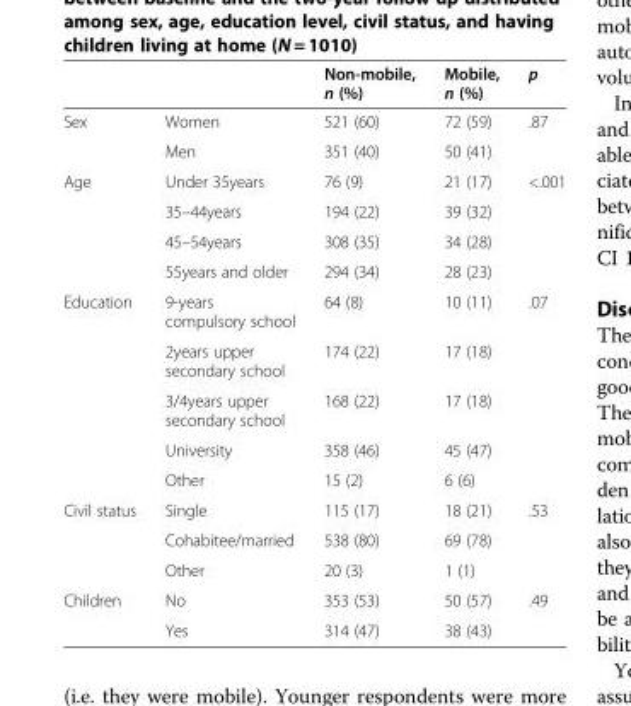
<table><thead><tr><td></td><td></td><td>Non-mobile, n (%)</td><td>Mobile, n (%)</td><td>p</td></tr></thead><tbody><tr><td rowspan="2">Sex</td><td>Women</td><td>521 (60)</td><td>72 (59)</td><td>.87</td></tr><tr><td>Men</td><td>351 (40)</td><td>50 (41)</td><td></td></tr><tr><td rowspan="4">Age</td><td>Under 35years</td><td>76 (9)</td><td>21 (17)</td><td>&lt;.001</td></tr><tr><td>35–44years</td><td>194 (22)</td><td>39 (32)</td><td></td></tr><tr><td>45–54years</td><td>308 (35)</td><td>34 (28)</td><td></td></tr><tr><td>55years and older</td><td>294 (34)</td><td>28 (23)</td><td></td></tr><tr><td rowspan="5">Education</td><td>9-years compulsory school</td><td>64 (8)</td><td>10 (11)</td><td>.07</td></tr><tr><td>2years upper secondary school</td><td>174 (22)</td><td>17 (18)</td><td></td></tr><tr><td>3/4years upper secondary school</td><td>168 (22)</td><td>17 (18)</td><td></td></tr><tr><td>University</td><td>358 (46)</td><td>45 (47)</td><td></td></tr><tr><td>Other</td><td>15 (2)</td><td>6 (6)</td><td></td></tr><tr><td rowspan="3">Civil status</td><td>Single</td><td>115 (17)</td><td>18 (21)</td><td>.53</td></tr><tr><td>Cohabitee/married</td><td>538 (80)</td><td>69 (78)</td><td></td></tr><tr><td>Other</td><td>20 (3)</td><td>1 (1)</td><td></td></tr><tr><td rowspan="2">Children</td><td>No</td><td>353 (53)</td><td>50 (57)</td><td>.49</td></tr><tr><td>Yes</td><td>314 (47)</td><td>38 (43)</td><td></td></tr></tbody></table>